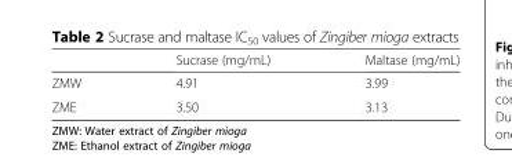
<table><thead><tr><td></td><td>Sucrase (mg/mL)</td><td>Maltase (mg/mL)</td></tr></thead><tbody><tr><td>ZMW</td><td>4.91</td><td>3.99</td></tr><tr><td>ZME</td><td>3.50</td><td>3.13</td></tr></tbody></table>